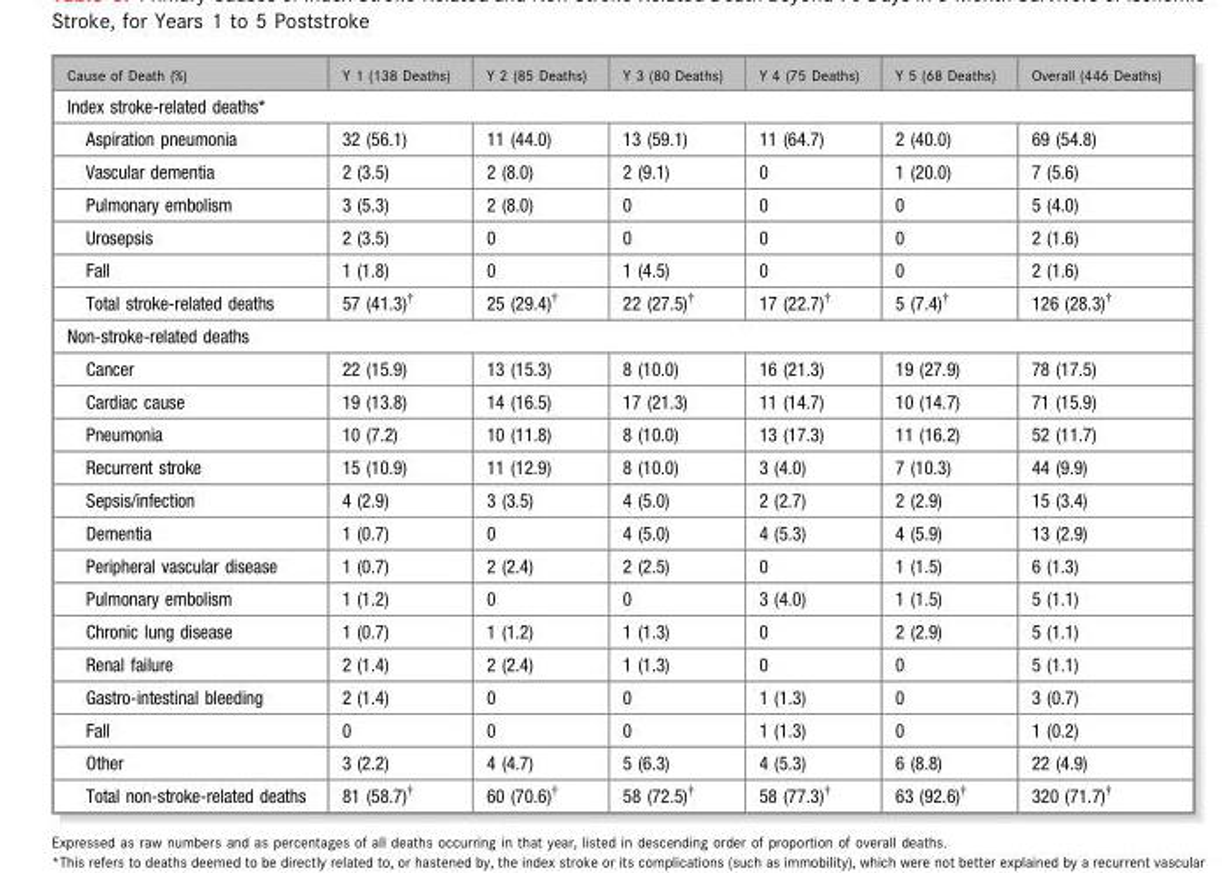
<table><thead><tr><td>Cause of Death (%)</td><td>Y 1 (138 Deaths)</td><td>Y 2 (85 Deaths)</td><td>Y 3 (80 Deaths)</td><td>Y 4 (75 Deaths)</td><td>Y 5 (68 Deaths)</td><td>Overall (446 Deaths)</td></tr></thead><tbody><tr><td colspan="7">Index stroke-related deaths*</td></tr><tr><td>Aspiration pneumonia</td><td>32 (56.1)</td><td>11 (44.0)</td><td>13 (59.1)</td><td>11 (64.7)</td><td>2 (40.0)</td><td>69 (54.8)</td></tr><tr><td>Vascular dementia</td><td>2 (3.5)</td><td>2 (8.0)</td><td>2 (9.1)</td><td>0</td><td>1 (20.0)</td><td>7 (5.6)</td></tr><tr><td>Pulmonary embolism</td><td>3 (5.3)</td><td>2 (8.0)</td><td>0</td><td>0</td><td>0</td><td>5 (4.0)</td></tr><tr><td>Urosepsis</td><td>2 (3.5)</td><td>0</td><td>0</td><td>0</td><td>0</td><td>2 (1.6)</td></tr><tr><td>Fall</td><td>1 (1.8)</td><td>0</td><td>1 (4.5)</td><td>0</td><td>0</td><td>2 (1.6)</td></tr><tr><td>Total stroke-related deaths</td><td>57 (41.3)†</td><td>25 (29.4)†</td><td>22 (27.5)†</td><td>17 (22.7)†</td><td>5 (7.4)†</td><td>126 (28.3)†</td></tr><tr><td colspan="7">Non-stroke-related deaths</td></tr><tr><td>Cancer</td><td>22 (15.9)</td><td>13 (15.3)</td><td>8 (10.0)</td><td>16 (21.3)</td><td>19 (27.9)</td><td>78 (17.5)</td></tr><tr><td>Cardiac cause</td><td>19 (13.8)</td><td>14 (16.5)</td><td>17 (21.3)</td><td>11 (14.7)</td><td>10 (14.7)</td><td>71 (15.9)</td></tr><tr><td>Pneumonia</td><td>10 (7.2)</td><td>10 (11.8)</td><td>8 (10.0)</td><td>13 (17.3)</td><td>11 (16.2)</td><td>52 (11.7)</td></tr><tr><td>Recurrent stroke</td><td>15 (10.9)</td><td>11 (12.9)</td><td>8 (10.0)</td><td>3 (4.0)</td><td>7 (10.3)</td><td>44 (9.9)</td></tr><tr><td>Sepsis/infection</td><td>4 (2.9)</td><td>3 (3.5)</td><td>4 (5.0)</td><td>2 (2.7)</td><td>2 (2.9)</td><td>15 (3.4)</td></tr><tr><td>Dementia</td><td>1 (0.7)</td><td>0</td><td>4 (5.0)</td><td>4 (5.3)</td><td>4 (5.9)</td><td>13 (2.9)</td></tr><tr><td>Peripheral vascular disease</td><td>1 (0.7)</td><td>2 (2.4)</td><td>2 (2.5)</td><td>0</td><td>1 (1.5)</td><td>6 (1.3)</td></tr><tr><td>Pulmonary embolism</td><td>1 (1.2)</td><td>0</td><td>0</td><td>3 (4.0)</td><td>1 (1.5)</td><td>5 (1.1)</td></tr><tr><td>Chronic lung disease</td><td>1 (0.7)</td><td>1 (1.2)</td><td>1 (1.3)</td><td>0</td><td>2 (2.9)</td><td>5 (1.1)</td></tr><tr><td>Renal failure</td><td>2 (1.4)</td><td>2 (2.4)</td><td>1 (1.3)</td><td>0</td><td>0</td><td>5 (1.1)</td></tr><tr><td>Gastro-intestinal bleeding</td><td>2 (1.4)</td><td>0</td><td>0</td><td>1 (1.3)</td><td>0</td><td>3 (0.7)</td></tr><tr><td>Fall</td><td>0</td><td>0</td><td>0</td><td>1 (1.3)</td><td>0</td><td>1 (0.2)</td></tr><tr><td>Other</td><td>3 (2.2)</td><td>4 (4.7)</td><td>5 (6.3)</td><td>4 (5.3)</td><td>6 (8.8)</td><td>22 (4.9)</td></tr><tr><td>Total non-stroke-related deaths</td><td>81 (58.7)†</td><td>60 (70.6)†</td><td>58 (72.5)†</td><td>58 (77.3)†</td><td>63 (92.6)†</td><td>320 (71.7)†</td></tr></tbody></table>